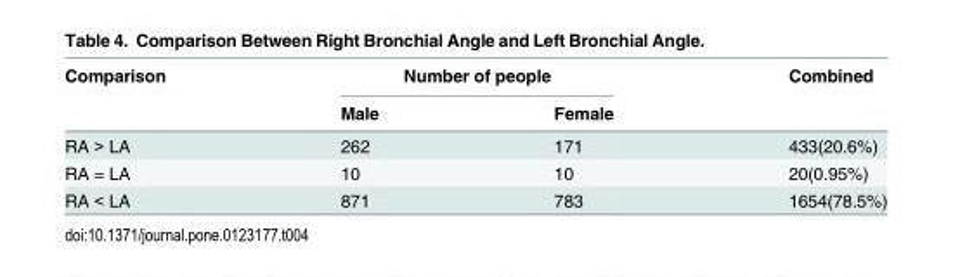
<table><thead><tr><td rowspan="2">Comparison</td><td colspan="2">Number of people</td><td rowspan="2">Combined</td></tr><tr><td>Male</td><td>Female</td></tr></thead><tbody><tr><td>RA &gt; LA</td><td>262</td><td>171</td><td>433(20.6%)</td></tr><tr><td>RA = LA</td><td>10</td><td>10</td><td>20(0.95%)</td></tr><tr><td>RA &lt; LA</td><td>871</td><td>783</td><td>1654(78.5%)</td></tr></tbody></table>